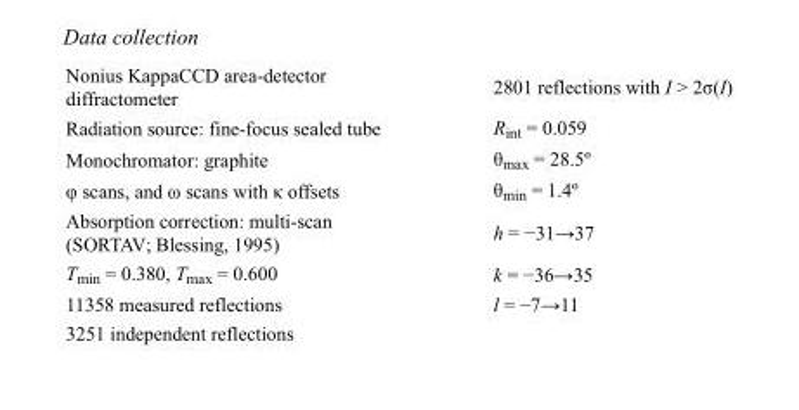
<table><tbody><tr><td>Nonius KappaCCD area-detector diffractometer</td><td>2801 reflections with I &gt; 2σ(I)</td></tr><tr><td>Radiation source: fine-focus sealed tube</td><td>R<sub>int</sub> = 0.059</td></tr><tr><td>Monochromator: graphite</td><td>θ<sub>max</sub> = 28.5º</td></tr><tr><td>φ scans, and ω scans with κ offsets</td><td>θ<sub>min</sub> = 1.4º</td></tr><tr><td>Absorption correction: multi-scan (SORTAV; Blessing, 1995)</td><td>h = −31→37</td></tr><tr><td>T<sub>min</sub> = 0.380, T<sub>max</sub> = 0.600</td><td>k = −36→35</td></tr><tr><td>11358 measured reflections</td><td>l = −7→11</td></tr><tr><td>3251 independent reflections</td><td></td></tr></tbody></table>